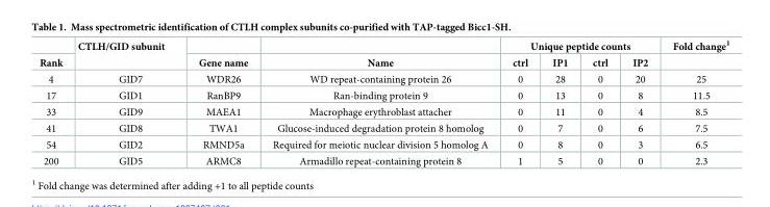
<table><thead><tr><td rowspan="2">Rank</td><td rowspan="2">CTLH/GID subunit</td><td rowspan="2">Gene name</td><td rowspan="2">Name</td><td colspan="4">Unique peptide counts</td><td rowspan="2">Fold change<sup>1</sup></td></tr><tr><td>ctrl</td><td>IP1</td><td>ctrl</td><td>IP2</td></tr></thead><tbody><tr><td>4</td><td>GID7</td><td>WDR26</td><td>WD repeat-containing protein 26</td><td>0</td><td>28</td><td>0</td><td>20</td><td>25</td></tr><tr><td>17</td><td>GID1</td><td>RanBP9</td><td>Ran-binding protein 9</td><td>0</td><td>13</td><td>0</td><td>8</td><td>11.5</td></tr><tr><td>33</td><td>GID9</td><td>MAEA1</td><td>Macrophage erythroblast attacher</td><td>0</td><td>11</td><td>0</td><td>4</td><td>8.5</td></tr><tr><td>41</td><td>GID8</td><td>TWA1</td><td>Glucose-induced degradation protein 8 homolog</td><td>0</td><td>7</td><td>0</td><td>6</td><td>7.5</td></tr><tr><td>54</td><td>GID2</td><td>RMND5a</td><td>Required for meiotic nuclear division 5 homolog A</td><td>0</td><td>8</td><td>0</td><td>3</td><td>6.5</td></tr><tr><td>200</td><td>GID5</td><td>ARMC8</td><td>Armadillo repeat-containing protein 8</td><td>1</td><td>5</td><td>0</td><td>0</td><td>2.3</td></tr></tbody></table>